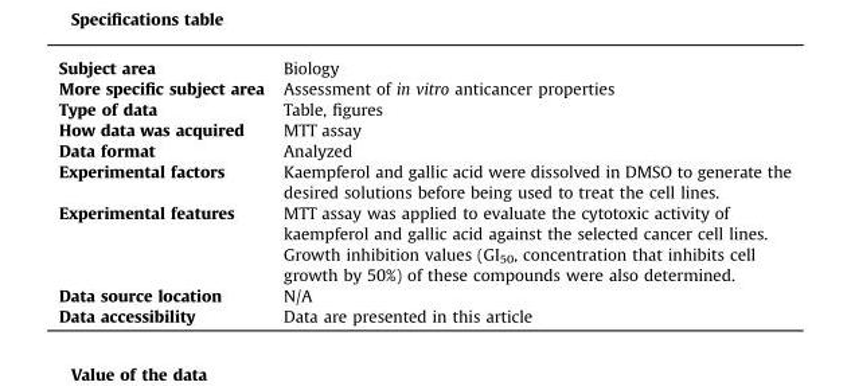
<table><tbody><tr><td>Subject area</td><td>Biology</td></tr><tr><td>More specific subject area</td><td>Assessment of in vitro anticancer properties</td></tr><tr><td>Type of data</td><td>Table, figures</td></tr><tr><td>How data was acquired</td><td>MTT assay</td></tr><tr><td>Data format</td><td>Analyzed</td></tr><tr><td>Experimental factors</td><td>Kaempferol and gallic acid were dissolved in DMSO to generate the desired solutions before being used to treat the cell lines.</td></tr><tr><td>Experimental features</td><td>MTT assay was applied to evaluate the cytotoxic activity of kaempferol and gallic acid against the selected cancer cell lines. Growth inhibition values (GI<sub>50</sub>, concentration that inhibits cell growth by 50%) of these compounds were also determined.</td></tr><tr><td>Data source location</td><td>N/A</td></tr><tr><td>Data accessibility</td><td>Data are presented in this article</td></tr></tbody></table>